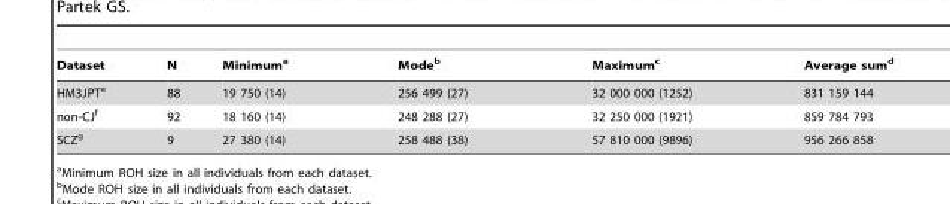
<table><thead><tr><td>Dataset</td><td>N</td><td>Minimum<sup>a</sup></td><td>Mode<sup>b</sup></td><td>Maximum<sup>c</sup></td><td>Average sum<sup>d</sup></td></tr></thead><tbody><tr><td>HM3JPT<sup>e</sup></td><td>88</td><td>19 750 (14)</td><td>256 499 (27)</td><td>32 000 000 (1252)</td><td>831 159 144</td></tr><tr><td>non-CJ<sup>f</sup></td><td>92</td><td>18 160 (14)</td><td>248 288 (27)</td><td>32 250 000 (1921)</td><td>859 784 793</td></tr><tr><td>SCZ<sup>g</sup></td><td>9</td><td>27 380 (14)</td><td>258 488 (38)</td><td>57 810 000 (9896)</td><td>956 266 858</td></tr></tbody></table>